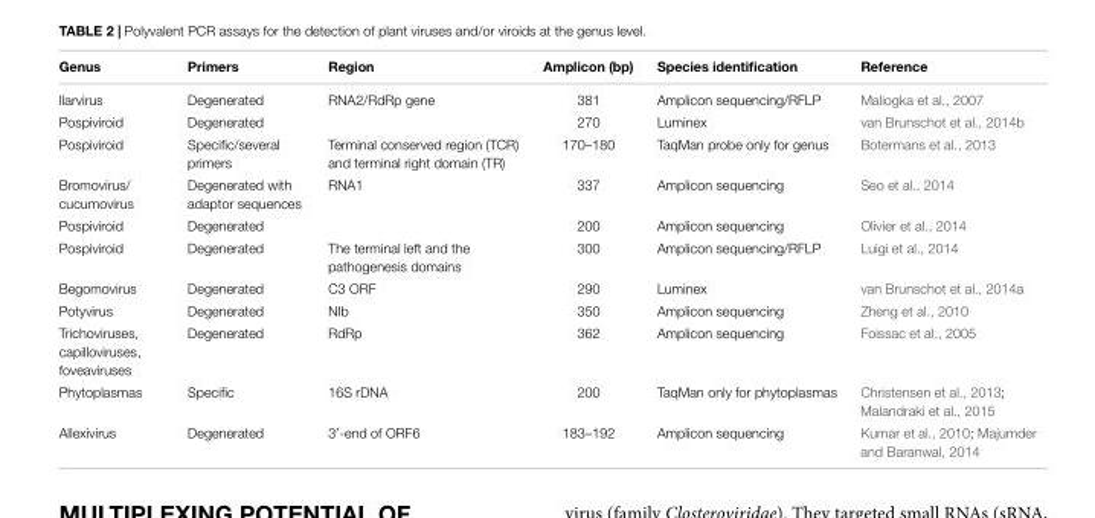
<table><thead><tr><td>Genus</td><td>Primers</td><td>Region</td><td>Amplicon (bp)</td><td>Species identification</td><td>Reference</td></tr></thead><tbody><tr><td>Ilarvirus</td><td>Degenerated</td><td>RNA2/RdRp gene</td><td>381</td><td>Amplicon sequencing/RFLP</td><td>Maliogka et al., 2007</td></tr><tr><td>Pospiviroid</td><td>Degenerated</td><td></td><td>270</td><td>Luminex</td><td>van Brunschot et al., 2014b</td></tr><tr><td>Pospiviroid</td><td>Specific/several primers</td><td>Terminal conserved region (TCR) and terminal right domain (TR)</td><td>170–180</td><td>TaqMan probe only for genus</td><td>Botermans et al., 2013</td></tr><tr><td>Bromovirus/ cucumovirus</td><td>Degenerated with adaptor sequences</td><td>RNA1</td><td>337</td><td>Amplicon sequencing</td><td>Seo et al., 2014</td></tr><tr><td>Pospiviroid</td><td>Degenerated</td><td></td><td>200</td><td>Amplicon sequencing</td><td>Olivier et al., 2014</td></tr><tr><td>Pospiviroid</td><td>Degenerated</td><td>The terminal left and the pathogenesis domains</td><td>300</td><td>Amplicon sequencing/RFLP</td><td>Luigi et al., 2014</td></tr><tr><td>Begomovirus</td><td>Degenerated</td><td>C3 ORF</td><td>290</td><td>Luminex</td><td>van Brunschot et al., 2014a</td></tr><tr><td>Potyvirus</td><td>Degenerated</td><td>NIb</td><td>350</td><td>Amplicon sequencing</td><td>Zheng et al., 2010</td></tr><tr><td>Trichoviruses, capilloviruses, foveaviruses</td><td>Degenerated</td><td>RdRp</td><td>362</td><td>Amplicon sequencing</td><td>Foissac et al., 2005</td></tr><tr><td>Phytoplasmas</td><td>Specific</td><td>16S rDNA</td><td>200</td><td>TaqMan only for phytoplasmas</td><td>Christensen et al., 2013; Malandraki et al., 2015</td></tr><tr><td>Allexivirus</td><td>Degenerated</td><td>3′-end of ORF6</td><td>183–192</td><td>Amplicon sequencing</td><td>Kumar et al., 2010; Majumder and Baranwal, 2014</td></tr></tbody></table>